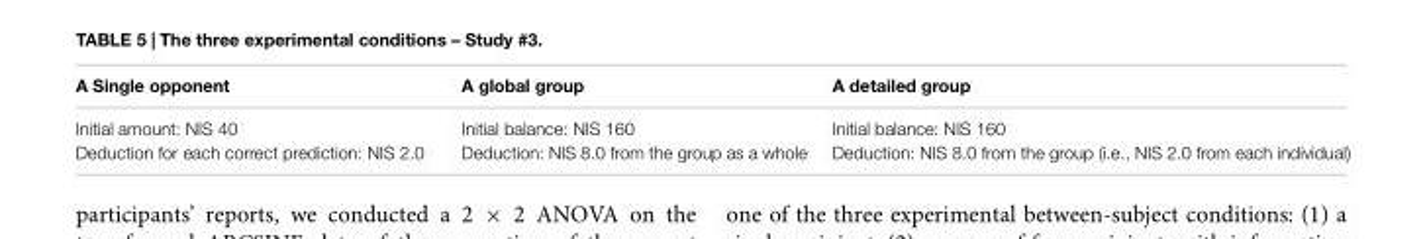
<table><thead><tr><td>A Single opponent</td><td>A global group</td><td>A detailed group</td></tr></thead><tbody><tr><td>Initial amount: NIS 40 Deduction for each correct prediction: NIS 2.0</td><td>Initial balance: NIS 160 Deduction: NIS 8.0 from the group as a whole</td><td>Initial balance: NIS 160 Deduction: NIS 8.0 from the group (i.e., NIS 2.0 from each individual)</td></tr></tbody></table>